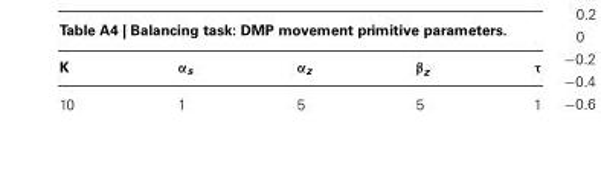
<table><thead><tr><td>K</td><td>α<sub>s</sub></td><td>α<sub>z</sub></td><td>β<sub>z</sub></td><td>τ</td></tr></thead><tbody><tr><td>10</td><td>1</td><td>5</td><td>5</td><td>1</td></tr></tbody></table>